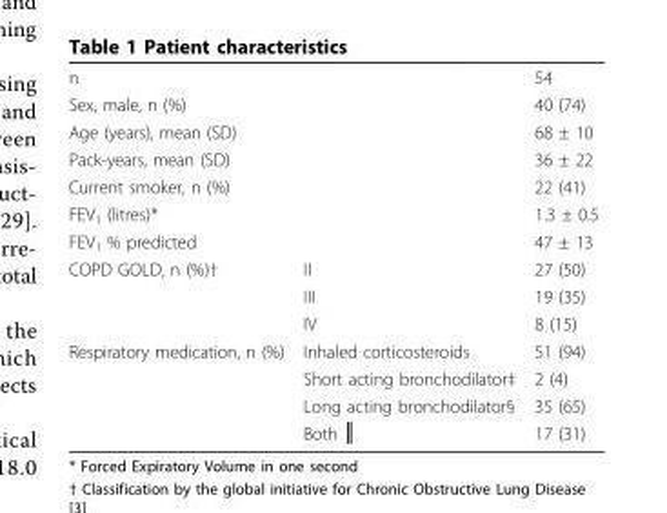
<table><tbody><tr><td>n</td><td></td><td>54</td></tr><tr><td>Sex, male, n (%)</td><td></td><td>40 (74)</td></tr><tr><td>Age (years), mean (SD)</td><td></td><td>68 ± 10</td></tr><tr><td>Pack-years, mean (SD)</td><td></td><td>36 ± 22</td></tr><tr><td>Current smoker, n (%)</td><td></td><td>22 (41)</td></tr><tr><td>FEV<sub>1</sub> (litres)*</td><td></td><td>1.3 ± 0.5</td></tr><tr><td>FEV<sub>1</sub> % predicted</td><td></td><td>47 ± 13</td></tr><tr><td rowspan="3">COPD GOLD, n (%)†</td><td>II</td><td>27 (50)</td></tr><tr><td>III</td><td>19 (35)</td></tr><tr><td>IV</td><td>8 (15)</td></tr><tr><td rowspan="4">Respiratory medication, n (%)</td><td>Inhaled corticosteroids</td><td>51 (94)</td></tr><tr><td>Short acting bronchodilator‡</td><td>2 (4)</td></tr><tr><td>Long acting bronchodilator§</td><td>35 (65)</td></tr><tr><td>Both ║</td><td>17 (31)</td></tr></tbody></table>